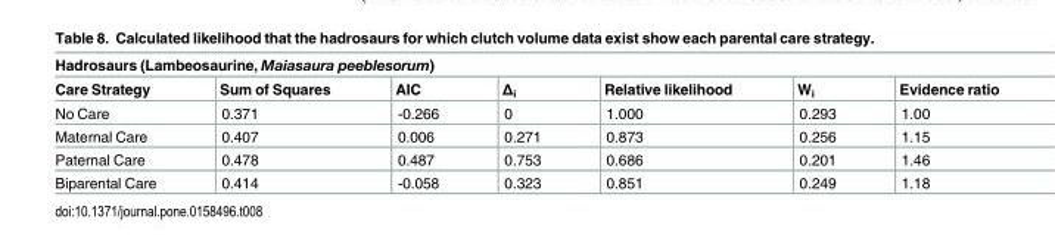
<table><thead><tr><td colspan="7">Hadrosaurs (Lambeosaurine, Maiasaura peeblesorum)</td></tr><tr><td>Care Strategy</td><td>Sum of Squares</td><td>AIC</td><td>Δ<sub>i</sub></td><td>Relative likelihood</td><td>W<sub>i</sub></td><td>Evidence ratio</td></tr></thead><tbody><tr><td>No Care</td><td>0.371</td><td>-0.266</td><td>0</td><td>1.000</td><td>0.293</td><td>1.00</td></tr><tr><td>Maternal Care</td><td>0.407</td><td>0.006</td><td>0.271</td><td>0.873</td><td>0.256</td><td>1.15</td></tr><tr><td>Paternal Care</td><td>0.478</td><td>0.487</td><td>0.753</td><td>0.686</td><td>0.201</td><td>1.46</td></tr><tr><td>Biparental Care</td><td>0.414</td><td>-0.058</td><td>0.323</td><td>0.851</td><td>0.249</td><td>1.18</td></tr></tbody></table>